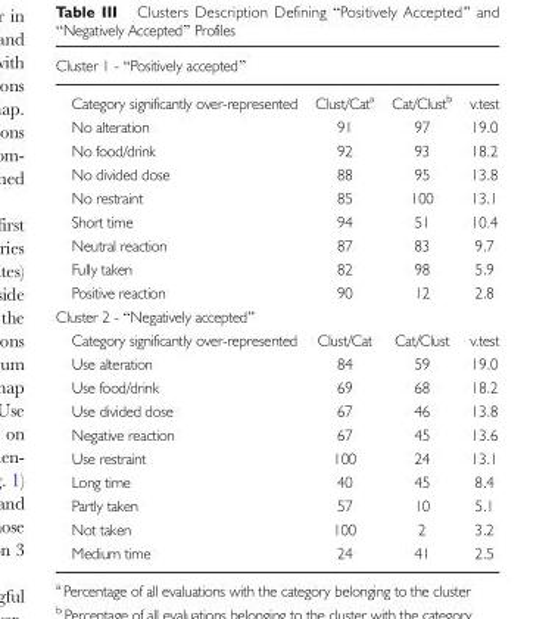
<table><thead><tr><td colspan="4">Cluster 1 - “Positively accepted”</td></tr><tr><td>Category significantly over-represented</td><td>Clust/Cat<sup>a</sup></td><td>Cat/Clust<sup>b</sup></td><td>v.test</td></tr></thead><tbody><tr><td>No alteration</td><td>91</td><td>97</td><td>19.0</td></tr><tr><td>No food/drink</td><td>92</td><td>93</td><td>18.2</td></tr><tr><td>No divided dose</td><td>88</td><td>95</td><td>13.8</td></tr><tr><td>No restraint</td><td>85</td><td>100</td><td>13.1</td></tr><tr><td>Short time</td><td>94</td><td>51</td><td>10.4</td></tr><tr><td>Neutral reaction</td><td>87</td><td>83</td><td>9.7</td></tr><tr><td>Fully taken</td><td>82</td><td>98</td><td>5.9</td></tr><tr><td>Positive reaction</td><td>90</td><td>12</td><td>2.8</td></tr><tr><td colspan="4">Cluster 2 - “Negatively accepted”</td></tr><tr><td>Category significantly over-represented</td><td>Clust/Cat</td><td>Cat/Clust</td><td>v.test</td></tr><tr><td>Use alteration</td><td>84</td><td>59</td><td>19.0</td></tr><tr><td>Use food/drink</td><td>69</td><td>68</td><td>18.2</td></tr><tr><td>Use divided dose</td><td>67</td><td>46</td><td>13.8</td></tr><tr><td>Negative reaction</td><td>67</td><td>45</td><td>13.6</td></tr><tr><td>Use restraint</td><td>100</td><td>24</td><td>13.1</td></tr><tr><td>Long time</td><td>40</td><td>45</td><td>8.4</td></tr><tr><td>Partly taken</td><td>57</td><td>10</td><td>5.1</td></tr><tr><td>Not taken</td><td>100</td><td>2</td><td>3.2</td></tr><tr><td>Medium time</td><td>24</td><td>41</td><td>2.5</td></tr></tbody></table>